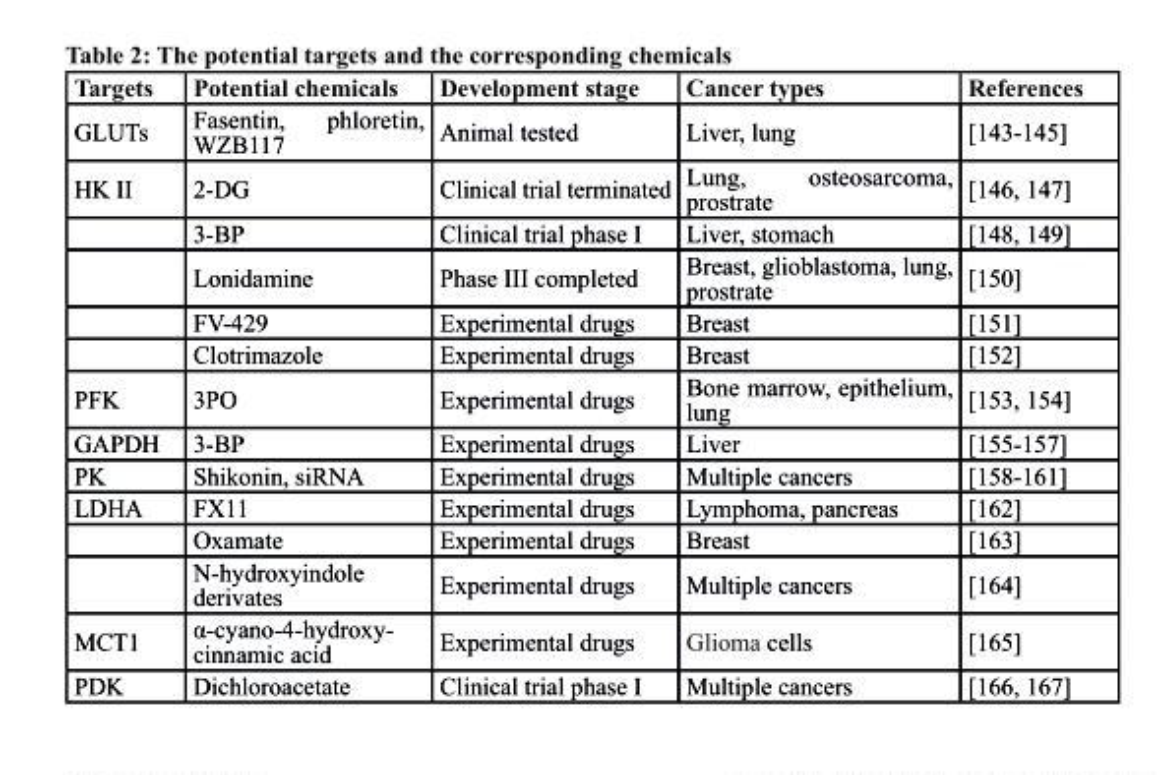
<table><thead><tr><td>targets</td><td>Potential chemicals</td><td>development stage</td><td>cancer types</td><td>references</td></tr></thead><tbody><tr><td>GLUTs</td><td>Fasentin, phloretin, WZB117</td><td>Animal tested</td><td>Liver, lung</td><td>[143-145]</td></tr><tr><td rowspan="5">HK II</td><td>2-DG</td><td>Clinical trial terminated</td><td>Lung, osteosarcoma, prostrate</td><td>[146, 147]</td></tr><tr><td>3-BP</td><td>Clinical trial phase I</td><td>Liver, stomach</td><td>[148, 149]</td></tr><tr><td>Lonidamine</td><td>Phase III completed</td><td>Breast, glioblastoma, lung, prostrate</td><td>[150]</td></tr><tr><td>FV-429</td><td>Experimental drugs</td><td>Breast</td><td>[151]</td></tr><tr><td>Clotrimazole</td><td>Experimental drugs</td><td>Breast</td><td>[152]</td></tr><tr><td>PFK</td><td>3PO</td><td>Experimental drugs</td><td>Bone marrow, epithelium, lung</td><td>[153, 154]</td></tr><tr><td>GAPDH</td><td>3-BP</td><td>Experimental drugs</td><td>Liver</td><td>[155-157]</td></tr><tr><td>PK</td><td>Shikonin, siRNA</td><td>Experimental drugs</td><td>Multiple cancers</td><td>[158-161]</td></tr><tr><td rowspan="3">LDHA</td><td>FX11</td><td>Experimental drugs</td><td>Lymphoma, pancreas</td><td>[162]</td></tr><tr><td>Oxamate</td><td>Experimental drugs</td><td>Breast</td><td>[163]</td></tr><tr><td>N-hydroxyindole derivates</td><td>Experimental drugs</td><td>Multiple cancers</td><td>[164]</td></tr><tr><td>MCT1</td><td>α-cyano-4-hydroxy- cinnamic acid</td><td>Experimental drugs</td><td>Glioma cells</td><td>[165]</td></tr><tr><td>PDK</td><td>Dichloroacetate</td><td>Clinical trial phase I</td><td>Multiple cancers</td><td>[166, 167]</td></tr></tbody></table>